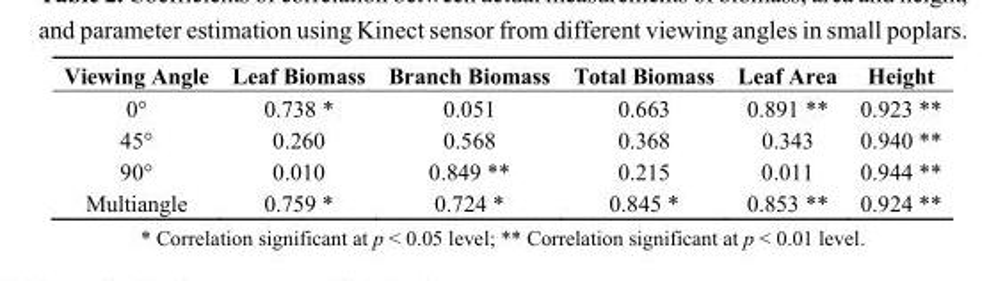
<table><thead><tr><td>Viewing Angle</td><td>Leaf Biomass</td><td>Branch Biomass</td><td>Total Biomass</td><td>Leaf Area</td><td>Height</td></tr></thead><tbody><tr><td>0°</td><td>0.738 *</td><td>0.051</td><td>0.663</td><td>0.891 **</td><td>0.923 **</td></tr><tr><td>45°</td><td>0.260</td><td>0.568</td><td>0.368</td><td>0.343</td><td>0.940 **</td></tr><tr><td>90°</td><td>0.010</td><td>0.849 **</td><td>0.215</td><td>0.011</td><td>0.944 **</td></tr><tr><td>Multiangle</td><td>0.759 *</td><td>0.724 *</td><td>0.845 *</td><td>0.853 **</td><td>0.924 **</td></tr></tbody></table>